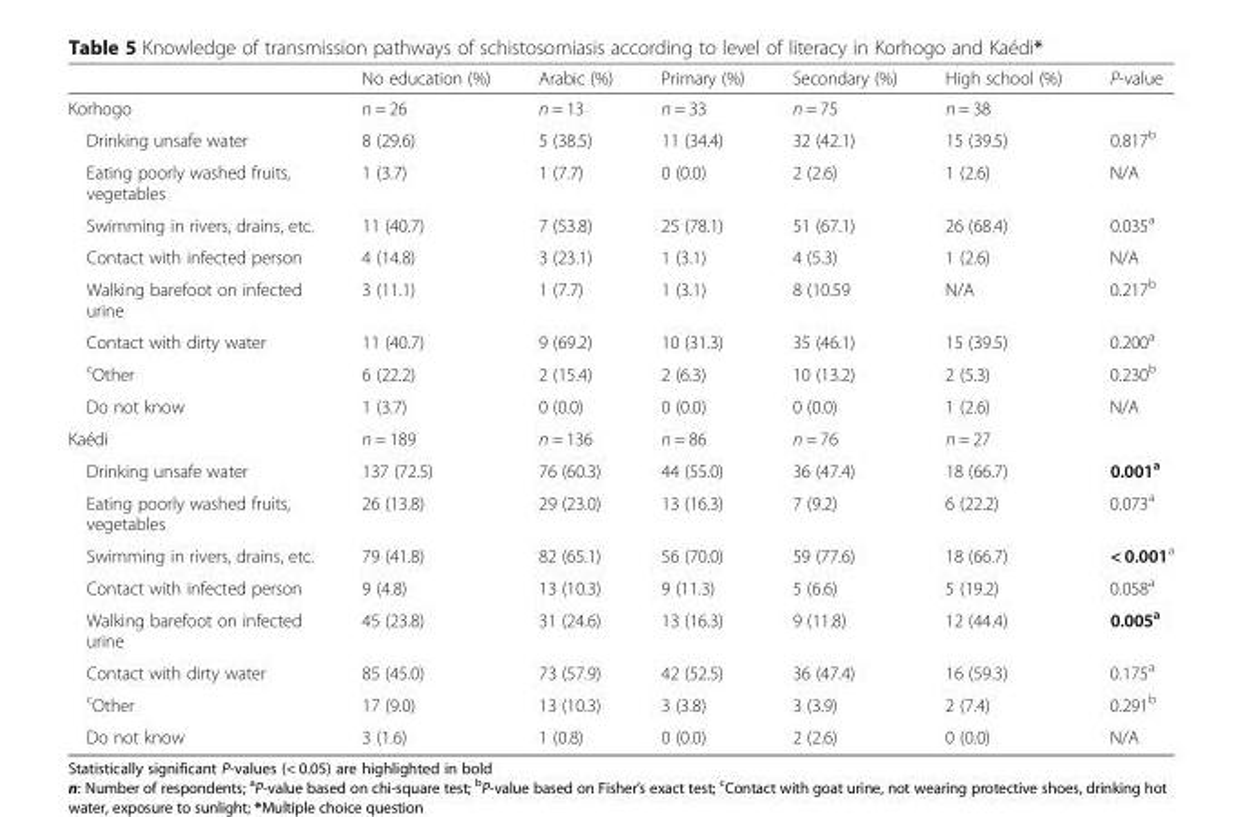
<table><thead><tr><td></td><td>No education (%)</td><td>Arabic (%)</td><td>Primary (%)</td><td>Secondary (%)</td><td>High school (%)</td><td>P-value</td></tr></thead><tbody><tr><td>Korhogo</td><td>n = 26</td><td>n = 13</td><td>n = 33</td><td>n = 75</td><td>n = 38</td><td></td></tr><tr><td>Drinking unsafe water</td><td>8 (29.6)</td><td>5 (38.5)</td><td>11 (34.4)</td><td>32 (42.1)</td><td>15 (39.5)</td><td>0.817<sup>b</sup></td></tr><tr><td>Eating poorly washed fruits, vegetables</td><td>1 (3.7)</td><td>1 (7.7)</td><td>0 (0.0)</td><td>2 (2.6)</td><td>1 (2.6)</td><td>N/A</td></tr><tr><td>Swimming in rivers, drains, etc.</td><td>11 (40.7)</td><td>7 (53.8)</td><td>25 (78.1)</td><td>51 (67.1)</td><td>26 (68.4)</td><td>0.035<sup>a</sup></td></tr><tr><td>Contact with infected person</td><td>4 (14.8)</td><td>3 (23.1)</td><td>1 (3.1)</td><td>4 (5.3)</td><td>1 (2.6)</td><td>N/A</td></tr><tr><td>Walking barefoot on infected urine</td><td>3 (11.1)</td><td>1 (7.7)</td><td>1 (3.1)</td><td>8 (10.59</td><td>N/A</td><td>0.217<sup>b</sup></td></tr><tr><td>Contact with dirty water</td><td>11 (40.7)</td><td>9 (69.2)</td><td>10 (31.3)</td><td>35 (46.1)</td><td>15 (39.5)</td><td>0.200<sup>a</sup></td></tr><tr><td><sup>c</sup>Other</td><td>6 (22.2)</td><td>2 (15.4)</td><td>2 (6.3)</td><td>10 (13.2)</td><td>2 (5.3)</td><td>0.230<sup>b</sup></td></tr><tr><td>Do not know</td><td>1 (3.7)</td><td>0 (0.0)</td><td>0 (0.0)</td><td>0 (0.0)</td><td>1 (2.6)</td><td>N/A</td></tr><tr><td>Kaédi</td><td>n = 189</td><td>n = 136</td><td>n = 86</td><td>n = 76</td><td>n = 27</td><td></td></tr><tr><td>Drinking unsafe water</td><td>137 (72.5)</td><td>76 (60.3)</td><td>44 (55.0)</td><td>36 (47.4)</td><td>18 (66.7)</td><td>0.001<sup>a</sup></td></tr><tr><td>Eating poorly washed fruits, vegetables</td><td>26 (13.8)</td><td>29 (23.0)</td><td>13 (16.3)</td><td>7 (9.2)</td><td>6 (22.2)</td><td>0.073<sup>a</sup></td></tr><tr><td>Swimming in rivers, drains, etc.</td><td>79 (41.8)</td><td>82 (65.1)</td><td>56 (70.0)</td><td>59 (77.6)</td><td>18 (66.7)</td><td>&lt; 0.001<sup>a</sup></td></tr><tr><td>Contact with infected person</td><td>9 (4.8)</td><td>13 (10.3)</td><td>9 (11.3)</td><td>5 (6.6)</td><td>5 (19.2)</td><td>0.058<sup>a</sup></td></tr><tr><td>Walking barefoot on infected urine</td><td>45 (23.8)</td><td>31 (24.6)</td><td>13 (16.3)</td><td>9 (11.8)</td><td>12 (44.4)</td><td>0.005<sup>a</sup></td></tr><tr><td>Contact with dirty water</td><td>85 (45.0)</td><td>73 (57.9)</td><td>42 (52.5)</td><td>36 (47.4)</td><td>16 (59.3)</td><td>0.175<sup>a</sup></td></tr><tr><td><sup>c</sup>Other</td><td>17 (9.0)</td><td>13 (10.3)</td><td>3 (3.8)</td><td>3 (3.9)</td><td>2 (7.4)</td><td>0.291<sup>b</sup></td></tr><tr><td>Do not know</td><td>3 (1.6)</td><td>1 (0.8)</td><td>0 (0.0)</td><td>2 (2.6)</td><td>0 (0.0)</td><td>N/A</td></tr></tbody></table>